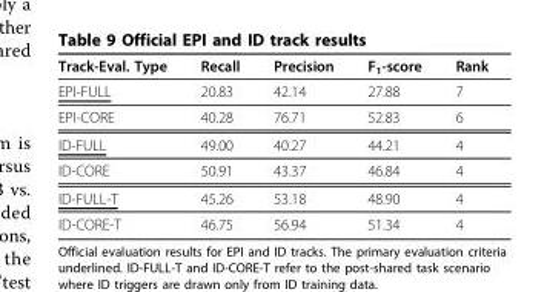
<table><thead><tr><td>Track-Eval. Type</td><td>Recall</td><td>Precision</td><td>F1-score</td><td>Rank</td></tr></thead><tbody><tr><td>EPI-FULL</td><td>20.83</td><td>42.14</td><td>27.88</td><td>7</td></tr><tr><td>EPI-CORE</td><td>40.28</td><td>76.71</td><td>52.83</td><td>6</td></tr><tr><td>ID-FULL</td><td>49.00</td><td>40.27</td><td>44.21</td><td>4</td></tr><tr><td>ID-CORE</td><td>50.91</td><td>43.37</td><td>46.84</td><td>4</td></tr><tr><td>ID-FULL-T</td><td>45.26</td><td>53.18</td><td>48.90</td><td>4</td></tr><tr><td>ID-CORE-T</td><td>46.75</td><td>56.94</td><td>51.34</td><td>4</td></tr></tbody></table>